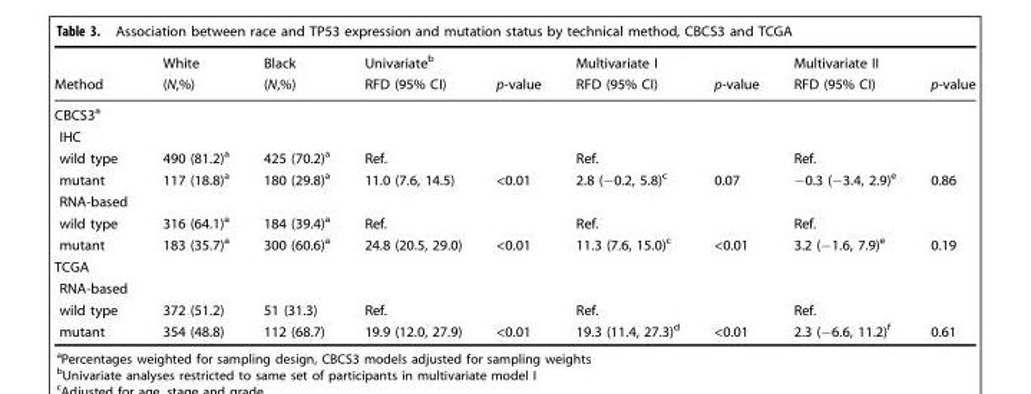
<table><thead><tr><td rowspan="2">Method</td><td rowspan="2">White (N,%)</td><td rowspan="2">Black (N,%)</td><td rowspan="2">Univariate<sup>b</sup> RFD (95% CI)</td><td rowspan="2">p-value</td><td rowspan="2">Multivariate I RFD (95% CI)</td><td rowspan="2">p-value</td><td rowspan="2">Multivariate II RFD (95% CI)</td><td rowspan="2">p-value</td></tr><tr></tr></thead><tbody><tr><td colspan="9">CBCS3<sup>a</sup></td></tr><tr><td colspan="9">IHC</td></tr><tr><td>wild type</td><td>490 (81.2)<sup>a</sup></td><td>425 (70.2)<sup>a</sup></td><td>Ref.</td><td></td><td>Ref.</td><td></td><td>Ref.</td><td></td></tr><tr><td>mutant</td><td>117 (18.8)<sup>a</sup></td><td>180 (29.8)<sup>a</sup></td><td>11.0 (7.6, 14.5)</td><td>&lt;0.01</td><td>2.8 (−0.2, 5.8)<sup>c</sup></td><td>0.07</td><td>−0.3 (−3.4, 2.9)<sup>e</sup></td><td>0.86</td></tr><tr><td colspan="9">RNA-based</td></tr><tr><td>wild type</td><td>316 (64.1)<sup>a</sup></td><td>184 (39.4)<sup>a</sup></td><td>Ref.</td><td></td><td>Ref.</td><td></td><td>Ref.</td><td></td></tr><tr><td>mutant</td><td>183 (35.7)<sup>a</sup></td><td>300 (60.6)<sup>a</sup></td><td>24.8 (20.5, 29.0)</td><td>&lt;0.01</td><td>11.3 (7.6, 15.0)<sup>c</sup></td><td>&lt;0.01</td><td>3.2 (−1.6, 7.9)<sup>e</sup></td><td>0.19</td></tr><tr><td colspan="9">TCGA</td></tr><tr><td colspan="9">RNA-based</td></tr><tr><td>wild type</td><td>372 (51.2)</td><td>51 (31.3)</td><td>Ref.</td><td></td><td>Ref.</td><td></td><td>Ref.</td><td></td></tr><tr><td>mutant</td><td>354 (48.8)</td><td>112 (68.7)</td><td>19.9 (12.0, 27.9)</td><td>&lt;0.01</td><td>19.3 (11.4, 27.3)<sup>d</sup></td><td>&lt;0.01</td><td>2.3 (−6.6, 11.2)<sup>f</sup></td><td>0.61</td></tr></tbody></table>